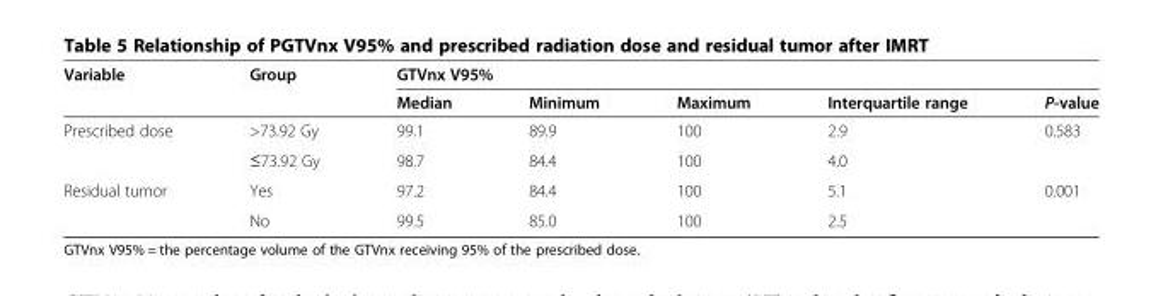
<table><thead><tr><td rowspan="2">Variable</td><td rowspan="2">Group</td><td colspan="5">GTVnx V95%</td></tr><tr><td>Median</td><td>Minimum</td><td>Maximum</td><td>Interquartile range</td><td>P-value</td></tr></thead><tbody><tr><td rowspan="2">Prescribed dose</td><td>&gt;73.92 Gy</td><td>99.1</td><td>89.9</td><td>100</td><td>2.9</td><td rowspan="2">0.583</td></tr><tr><td>≤73.92 Gy</td><td>98.7</td><td>84.4</td><td>100</td><td>4.0</td></tr><tr><td rowspan="2">Residual tumor</td><td>Yes</td><td>97.2</td><td>84.4</td><td>100</td><td>5.1</td><td>0.001</td></tr><tr><td>No</td><td>99.5</td><td>85.0</td><td>100</td><td>2.5</td><td></td></tr></tbody></table>